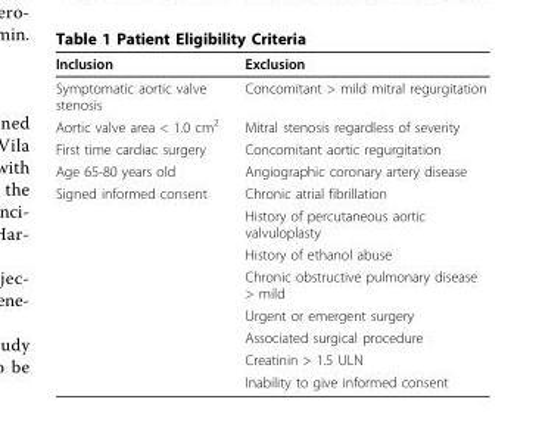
<table><thead><tr><td>Inclusion</td><td>Exclusion</td></tr></thead><tbody><tr><td>Symptomatic aortic valve stenosis</td><td>Concomitant &gt; mild mitral regurgitation</td></tr><tr><td>Aortic valve area &lt; 1.0 cm<sup>2</sup></td><td>Mitral stenosis regardless of severity</td></tr><tr><td>First time cardiac surgery</td><td>Concomitant aortic regurgitation</td></tr><tr><td>Age 65-80 years old</td><td>Angiographic coronary artery disease</td></tr><tr><td rowspan="8">Signed informed consent</td><td>Chronic atrial fibrillation</td></tr><tr><td>History of percutaneous aortic valvuloplasty</td></tr><tr><td>History of ethanol abuse</td></tr><tr><td>Chronic obstructive pulmonary disease &gt; mild</td></tr><tr><td>Urgent or emergent surgery</td></tr><tr><td>Associated surgical procedure</td></tr><tr><td>Creatinin &gt; 1.5 ULN</td></tr><tr><td>Inability to give informed consent</td></tr></tbody></table>